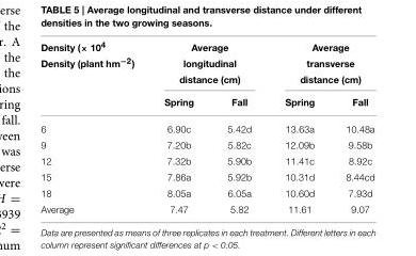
<table><thead><tr><td rowspan="2">Density (× 10<sup>4</sup> Density (plant hm<sup>−2</sup>)</td><td colspan="2">Average longitudinal distance (cm)</td><td colspan="2">Average transverse distance (cm)</td></tr><tr><td>Spring</td><td>Fall</td><td>Spring</td><td>Fall</td></tr></thead><tbody><tr><td>6</td><td>6.90c</td><td>5.42d</td><td>13.63a</td><td>10.48a</td></tr><tr><td>9</td><td>7.20b</td><td>5.82c</td><td>12.09b</td><td>9.58b</td></tr><tr><td>12</td><td>7.32b</td><td>5.90b</td><td>11.41c</td><td>8.92c</td></tr><tr><td>15</td><td>7.86a</td><td>5.92b</td><td>10.31d</td><td>8.44cd</td></tr><tr><td>18</td><td>8.05a</td><td>6.05a</td><td>10.60d</td><td>7.93d</td></tr><tr><td>Average</td><td>7.47</td><td>5.82</td><td>11.61</td><td>9.07</td></tr></tbody></table>